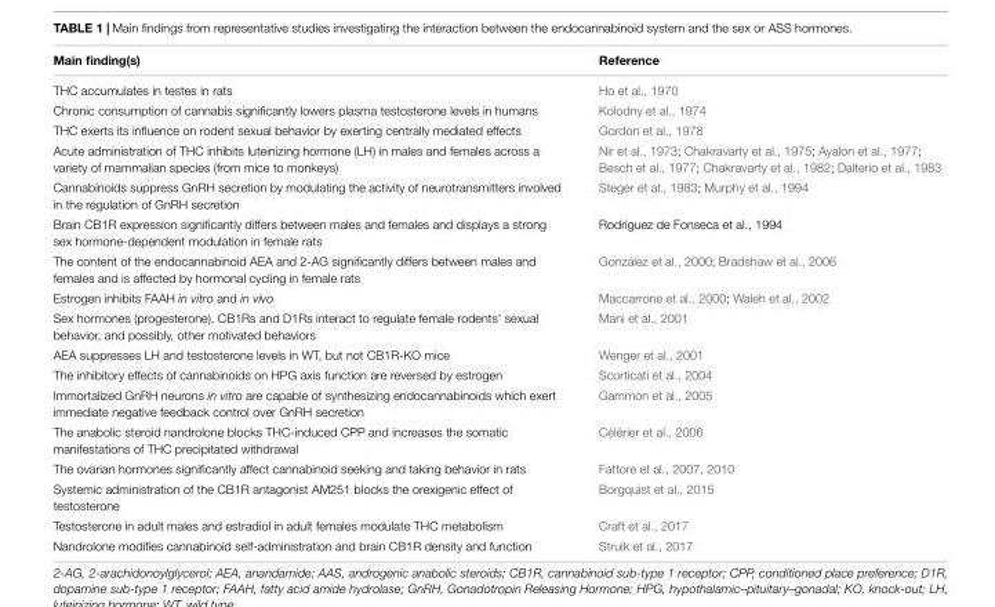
<table><thead><tr><td>Main finding(s)</td><td>Reference</td></tr></thead><tbody><tr><td>THC accumulates in testes in rats</td><td>Ho et al., 1970</td></tr><tr><td>Chronic consumption of cannabis significantly lowers plasma testosterone levels in humans</td><td>Kolodny et al., 1974</td></tr><tr><td>THC exerts its influence on rodent sexual behavior by exerting centrally mediated effects</td><td>Gordon et al., 1978</td></tr><tr><td>Acute administration of THC inhibits luteinizing hormone (LH) in males and females across a variety of mammalian species (from mice to monkeys)</td><td>Nir et al., 1973; Chakravarty et al., 1975; Ayalon et al., 1977; Besch et al., 1977; Chakravarty et al., 1982; Dalterio et al., 1983</td></tr><tr><td>Cannabinoids suppress GnRH secretion by modulating the activity of neurotransmitters involved in the regulation of GnRH secretion</td><td>Steger et al., 1983; Murphy et al., 1994</td></tr><tr><td>Brain CB1R expression significantly differs between males and females and displays a strong sex hormone-dependent modulation in female rats</td><td>Rodríguez de Fonseca et al., 1994</td></tr><tr><td>The content of the endocannabinoid AEA and 2-AG significantly differs between males and females and is affected by hormonal cycling in female rats</td><td>González et al., 2000; Bradshaw et al., 2006</td></tr><tr><td>Estrogen inhibits FAAH in vitro and in vivo</td><td>Maccarrone et al., 2000; Waleh et al., 2002</td></tr><tr><td>Sex hormones (progesterone), CB1Rs and D1Rs interact to regulate female rodents’ sexual behavior, and possibly, other motivated behaviors</td><td>Mani et al., 2001</td></tr><tr><td>AEA suppresses LH and testosterone levels in WT, but not CB1R-KO mice</td><td>Wenger et al., 2001</td></tr><tr><td>The inhibitory effects of cannabinoids on HPG axis function are reversed by estrogen</td><td>Scorticati et al., 2004</td></tr><tr><td>Immortalized GnRH neurons in vitro are capable of synthesizing endocannabinoids which exert immediate negative feedback control over GnRH secretion</td><td>Gammon et al., 2005</td></tr><tr><td>The anabolic steroid nandrolone blocks THC-induced CPP and increases the somatic manifestations of THC precipitated withdrawal</td><td>Célérier et al., 2006</td></tr><tr><td>The ovarian hormones significantly affect cannabinoid seeking and taking behavior in rats</td><td>Fattore et al., 2007, 2010</td></tr><tr><td>Systemic administration of the CB1R antagonist AM251 blocks the orexigenic effect of testosterone</td><td>Borgquist et al., 2015</td></tr><tr><td>Testosterone in adult males and estradiol in adult females modulate THC metabolism</td><td>Craft et al., 2017</td></tr><tr><td>Nandrolone modifies cannabinoid self-administration and brain CB1R density and function</td><td>Struik et al., 2017</td></tr></tbody></table>